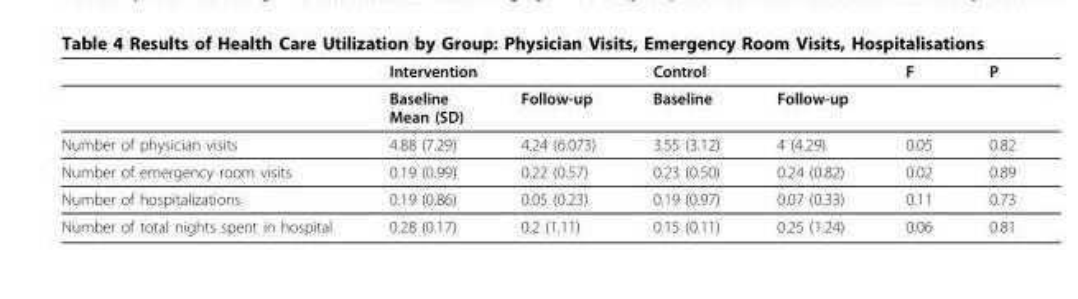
<table><thead><tr><td rowspan="2"></td><td colspan="2">Intervention</td><td colspan="2">Control</td><td rowspan="2">F</td><td rowspan="2">P</td></tr><tr><td>Baseline Mean (SD)</td><td>Follow-up</td><td>Baseline</td><td>Follow-up</td></tr></thead><tbody><tr><td>Number of physician visits</td><td>4.88 (7.29)</td><td>4.24 (6.073)</td><td>3.55 (3.12)</td><td>4 (4.29)</td><td>0.05</td><td>0.82</td></tr><tr><td>Number of emergency room visits</td><td>0.19 (0.99)</td><td>0.22 (0.57)</td><td>0.23 (0.50)</td><td>0.24 (0.82)</td><td>0.02</td><td>0.89</td></tr><tr><td>Number of hospitalizations</td><td>0.19 (0.86)</td><td>0.05 (0.23)</td><td>0.19 (0.97)</td><td>0.07 (0.33)</td><td>0.11</td><td>0.73</td></tr><tr><td>Number of total nights spent in hospital</td><td>0.28 (0.17)</td><td>0.2 (1.11)</td><td>0.15 (0.11)</td><td>0.25 (1.24)</td><td>0.06</td><td>0.81</td></tr></tbody></table>